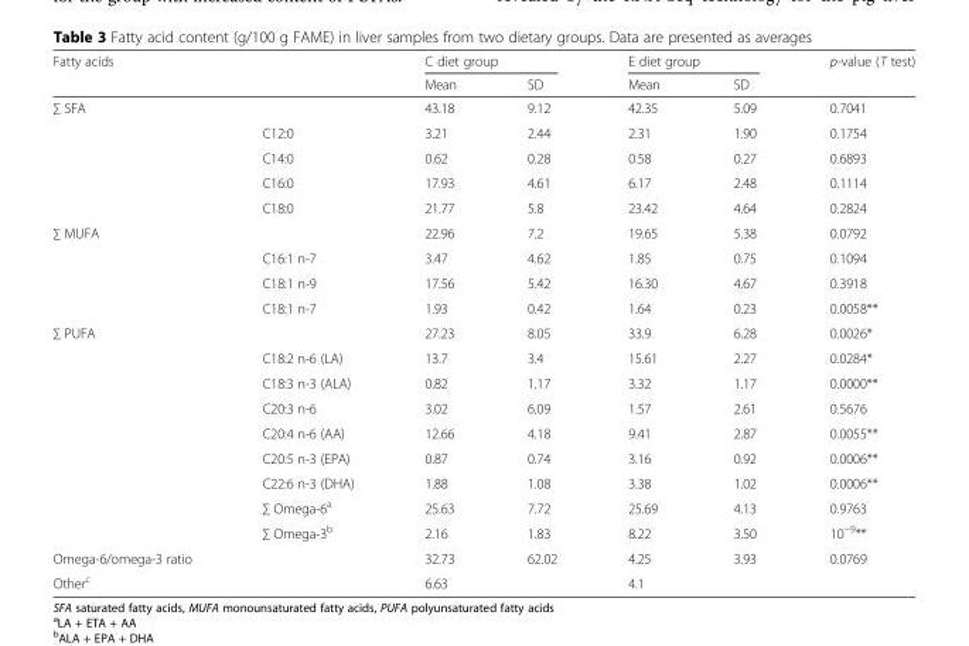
<table><thead><tr><td colspan="2">Fatty acids</td><td colspan="2">C diet group</td><td colspan="2">E diet group</td><td rowspan="2">p-value (T test)</td></tr><tr><td></td><td></td><td>Mean</td><td>SD</td><td>Mean</td><td>SD</td></tr></thead><tbody><tr><td rowspan="5">∑ SFA</td><td></td><td>43.18</td><td>9.12</td><td>42.35</td><td>5.09</td><td>0.7041</td></tr><tr><td>C12:0</td><td>3.21</td><td>2.44</td><td>2.31</td><td>1.90</td><td>0.1754</td></tr><tr><td>C14:0</td><td>0.62</td><td>0.28</td><td>0.58</td><td>0.27</td><td>0.6893</td></tr><tr><td>C16:0</td><td>17.93</td><td>4.61</td><td>6.17</td><td>2.48</td><td>0.1114</td></tr><tr><td>C18:0</td><td>21.77</td><td>5.8</td><td>23.42</td><td>4.64</td><td>0.2824</td></tr><tr><td rowspan="4">∑ MUFA</td><td></td><td>22.96</td><td>7.2</td><td>19.65</td><td>5.38</td><td>0.0792</td></tr><tr><td>C16:1 n-7</td><td>3.47</td><td>4.62</td><td>1.85</td><td>0.75</td><td>0.1094</td></tr><tr><td>C18:1 n-9</td><td>17.56</td><td>5.42</td><td>16.30</td><td>4.67</td><td>0.3918</td></tr><tr><td>C18:1 n-7</td><td>1.93</td><td>0.42</td><td>1.64</td><td>0.23</td><td>0.0058**</td></tr><tr><td rowspan="9">∑ PUFA</td><td></td><td>27.23</td><td>8.05</td><td>33.9</td><td>6.28</td><td>0.0026*</td></tr><tr><td>C18:2 n-6 (LA)</td><td>13.7</td><td>3.4</td><td>15.61</td><td>2.27</td><td>0.0284*</td></tr><tr><td>C18:3 n-3 (ALA)</td><td>0.82</td><td>1.17</td><td>3.32</td><td>1.17</td><td>0.0000**</td></tr><tr><td>C20:3 n-6</td><td>3.02</td><td>6.09</td><td>1.57</td><td>2.61</td><td>0.5676</td></tr><tr><td>C20:4 n-6 (AA)</td><td>12.66</td><td>4.18</td><td>9.41</td><td>2.87</td><td>0.0055**</td></tr><tr><td>C20:5 n-3 (EPA)</td><td>0.87</td><td>0.74</td><td>3.16</td><td>0.92</td><td>0.0006**</td></tr><tr><td>C22:6 n-3 (DHA)</td><td>1.88</td><td>1.08</td><td>3.38</td><td>1.02</td><td>0.0006**</td></tr><tr><td>∑ Omega-6<sup>a</sup></td><td>25.63</td><td>7.72</td><td>25.69</td><td>4.13</td><td>0.9763</td></tr><tr><td>∑ Omega-3<sup>b</sup></td><td>2.16</td><td>1.83</td><td>8.22</td><td>3.50</td><td>10<sup>−9</sup>**</td></tr><tr><td>Omega-6/omega-3 ratio</td><td></td><td>32.73</td><td>62.02</td><td>4.25</td><td>3.93</td><td>0.0769</td></tr><tr><td>Other<sup>c</sup></td><td></td><td>6.63</td><td></td><td>4.1</td><td></td><td></td></tr></tbody></table>